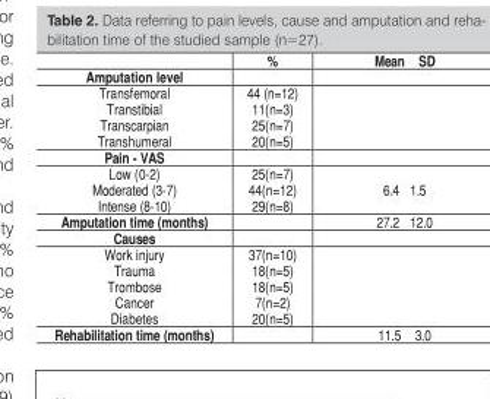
<table><thead><tr><td></td><td>%</td><td>Mean ± SD</td></tr></thead><tbody><tr><td colspan="3">Amputation level</td></tr><tr><td>Transfemoral</td><td>44 (n=12)</td><td></td></tr><tr><td>Transtibial</td><td>11(n=3)</td><td></td></tr><tr><td>Transcarpian</td><td>25(n=7)</td><td></td></tr><tr><td>Transhumeral</td><td>20(n=5)</td><td></td></tr><tr><td colspan="3">Pain - VAS</td></tr><tr><td>Low (0-2)</td><td>25(n=7)</td><td rowspan="3">6.4 ±1.5</td></tr><tr><td>Moderated (3-7)</td><td>44(n=12)</td></tr><tr><td>Intense (8-10)</td><td>29(n=8)</td></tr><tr><td>Amputation time (months)</td><td></td><td>27.2 ±12.0</td></tr><tr><td colspan="3">Causes</td></tr><tr><td>Work injury</td><td>37(n=10)</td><td></td></tr><tr><td>Trauma</td><td>18(n=5)</td><td></td></tr><tr><td>Trombose</td><td>18(n=5)</td><td></td></tr><tr><td>Cancer</td><td>7(n=2)</td><td></td></tr><tr><td>Diabetes</td><td>20(n=5)</td><td></td></tr><tr><td>Rehabilitation time (months)</td><td></td><td>11.5 ± 3.0</td></tr></tbody></table>